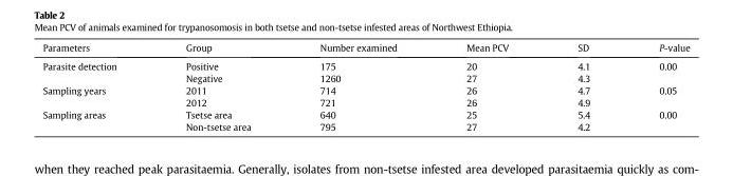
<table><thead><tr><td>Parameters</td><td>Group</td><td>Number examined</td><td>Mean PCV</td><td>SD</td><td>P-value</td></tr></thead><tbody><tr><td rowspan="2">Parasite detection</td><td>Positive</td><td>175</td><td>20</td><td>4.1</td><td rowspan="2">0.00</td></tr><tr><td>Negative</td><td>1260</td><td>27</td><td>4.3</td></tr><tr><td rowspan="2">Sampling years</td><td>2011</td><td>714</td><td>26</td><td>4.7</td><td rowspan="2">0.05</td></tr><tr><td>2012</td><td>721</td><td>26</td><td>4.9</td></tr><tr><td rowspan="2">Sampling areas</td><td>Tsetse area</td><td>640</td><td>25</td><td>5.4</td><td rowspan="2">0.00</td></tr><tr><td>Non-tsetse area</td><td>795</td><td>27</td><td>4.2</td></tr></tbody></table>